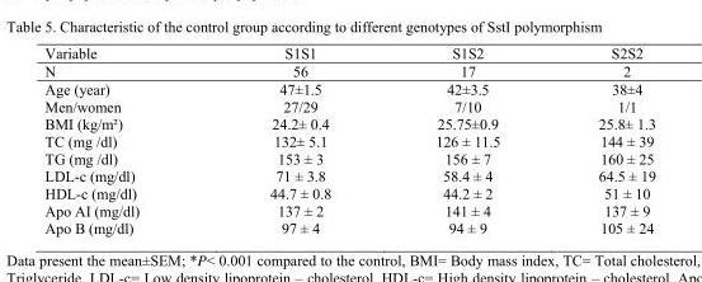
<table><thead><tr><td rowspan="2">Variable N</td><td rowspan="2">S1S1 56</td><td rowspan="2">S1S2 17</td><td rowspan="2">S2S2 2</td></tr><tr></tr></thead><tbody><tr><td>Age (year)</td><td>47±1.5</td><td>42±3.5</td><td>38±4</td></tr><tr><td>Men/women</td><td>27/29</td><td>7/10</td><td>1/1</td></tr><tr><td>BMI (kg/m²)</td><td>24.2± 0.4</td><td>25.75±0.9</td><td>25.8± 1.3</td></tr><tr><td>TC (mg /dl)</td><td>132± 5.1</td><td>126 ± 11.5</td><td>144 ± 39</td></tr><tr><td>TG (mg /dl)</td><td>153 ± 3</td><td>156 ± 7</td><td>160 ± 25</td></tr><tr><td>LDL-c (mg/dl)</td><td>71 ± 3.8</td><td>58.4 ± 4</td><td>64.5 ± 19</td></tr><tr><td>HDL-c (mg/dl)</td><td>44.7 ± 0.8</td><td>44.2 ± 2</td><td>51 ± 10</td></tr><tr><td>Apo AI (mg/dl)</td><td>137 ± 2</td><td>141 ± 4</td><td>137 ± 9</td></tr><tr><td>Apo B (mg/dl)</td><td>97 ± 4</td><td>94 ± 9</td><td>105 ± 24</td></tr></tbody></table>